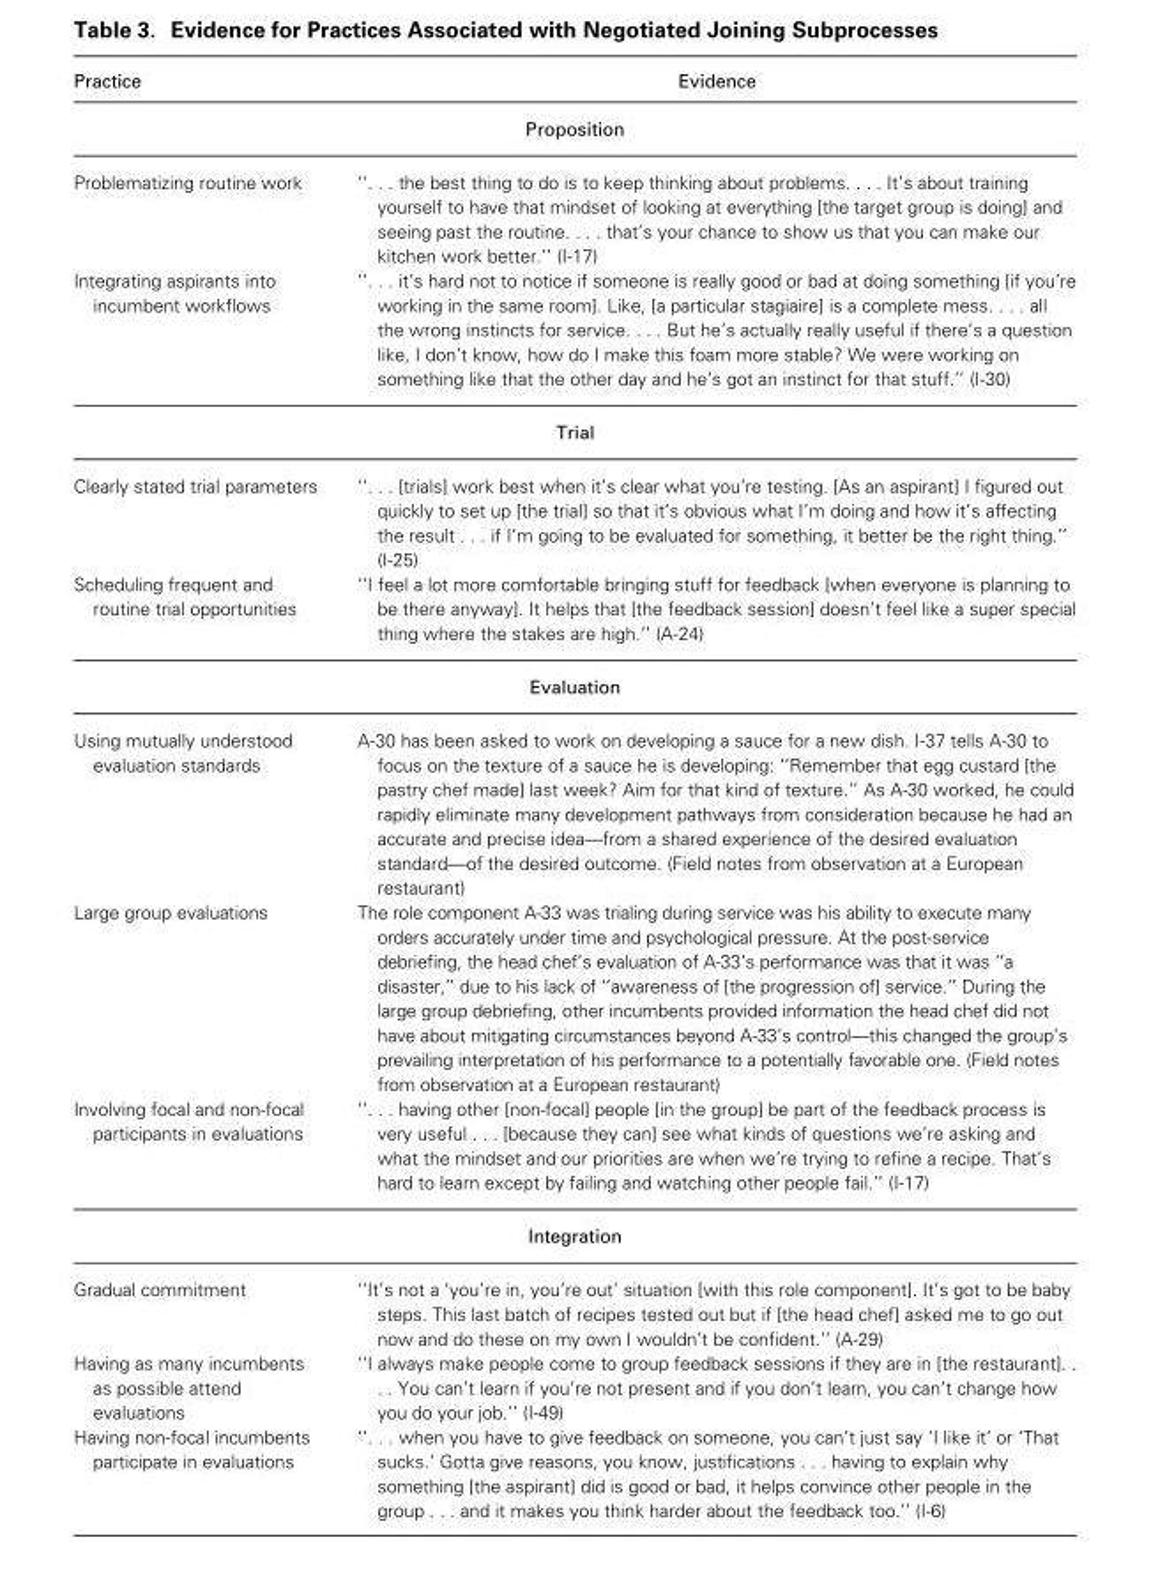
<table><thead><tr><td>Practice</td><td>Evidence</td></tr></thead><tbody><tr><td colspan="2">Proposition</td></tr><tr><td>Problematizing routine work</td><td>‘‘. . . the best thing to do is to keep thinking about problems. . . . It’s about training yourself to have that mindset of looking at everything [the target group is doing] and seeing past the routine. . . . that’s your chance to show us that you can make our kitchen work better.’’ (I-17)</td></tr><tr><td>Integrating aspirants into incumbent workflows</td><td>‘‘. . . it’s hard not to notice if someone is really good or bad at doing something [if you’re working in the same room]. Like, [a particular stagiaire] is a complete mess. . . . all the wrong instincts for service. . . . But he’s actually really useful if there’s a question like, I don’t know, how do I make this foam more stable? We were working on something like that the other day and he’s got an instinct for that stuff.’’ (I-30)</td></tr><tr><td colspan="2">Trial</td></tr><tr><td>Clearly stated trial parameters</td><td>‘‘. . . [trials] work best when it’s clear what you’re testing. [As an aspirant] I figured out quickly to set up [the trial] so that it’s obvious what I’m doing and how it’s affecting the result . . . if I’m going to be evaluated for something, it better be the right thing.’’ (I-25)</td></tr><tr><td>Scheduling frequent and routine trial opportunities</td><td>‘‘I feel a lot more comfortable bringing stuff for feedback [when everyone is planning to be there anyway]. It helps that [the feedback session] doesn’t feel like a super special thing where the stakes are high.’’ (A-24)</td></tr><tr><td colspan="2">Evaluation</td></tr><tr><td>Using mutually understood evaluation standards</td><td>A-30 has been asked to work on developing a sauce for a new dish. I-37 tells A-30 to focus on the texture of a sauce he is developing: ‘‘Remember that egg custard [the pastry chef made] last week? Aim for that kind of texture.’’ As A-30 worked, he could rapidly eliminate many development pathways from consideration because he had an accurate and precise idea—from a shared experience of the desired evaluation standard—of the desired outcome. (Field notes from observation at a European restaurant)</td></tr><tr><td>Large group evaluations</td><td>The role component A-33 was trialing during service was his ability to execute many orders accurately under time and psychological pressure. At the post-service debriefing, the head chef’s evaluation of A-33’s performance was that it was ‘‘a disaster,’’ due to his lack of ‘‘awareness of [the progression of] service.’’ During the large group debriefing, other incumbents provided information the head chef did not have about mitigating circumstances beyond A-33’s control—this changed the group’s prevailing interpretation of his performance to a potentially favorable one. (Field notes from observation at a European restaurant)</td></tr><tr><td>Involving focal and non-focal participants in evaluations</td><td>‘‘. . . having other [non-focal] people [in the group] be part of the feedback process is very useful . . . [because they can] see what kinds of questions we’re asking and what the mindset and our priorities are when we’re trying to refine a recipe. That’s hard to learn except by failing and watching other people fail.’’ (I-17)</td></tr><tr><td colspan="2">Integration</td></tr><tr><td>Gradual commitment</td><td>‘‘It’s not a ‘you’re in, you’re out’ situation [with this role component]. It’s got to be baby steps. This last batch of recipes tested out but if [the head chef] asked me to go out now and do these on my own I wouldn’t be confident.’’ (A-29)</td></tr><tr><td>Having as many incumbents as possible attend evaluations</td><td>‘‘I always make people come to group feedback sessions if they are in [the restaurant]. . . . You can’t learn if you’re not present and if you don’t learn, you can’t change how you do your job.’’ (I-49)</td></tr><tr><td>Having non-focal incumbents participate in evaluations</td><td>‘‘. . . when you have to give feedback on someone, you can’t just say ‘I like it’ or ‘That sucks.’ Gotta give reasons, you know, justifications . . . having to explain why something [the aspirant] did is good or bad, it helps convince other people in the group . . . and it makes you think harder about the feedback too.’’ (I-6)</td></tr></tbody></table>